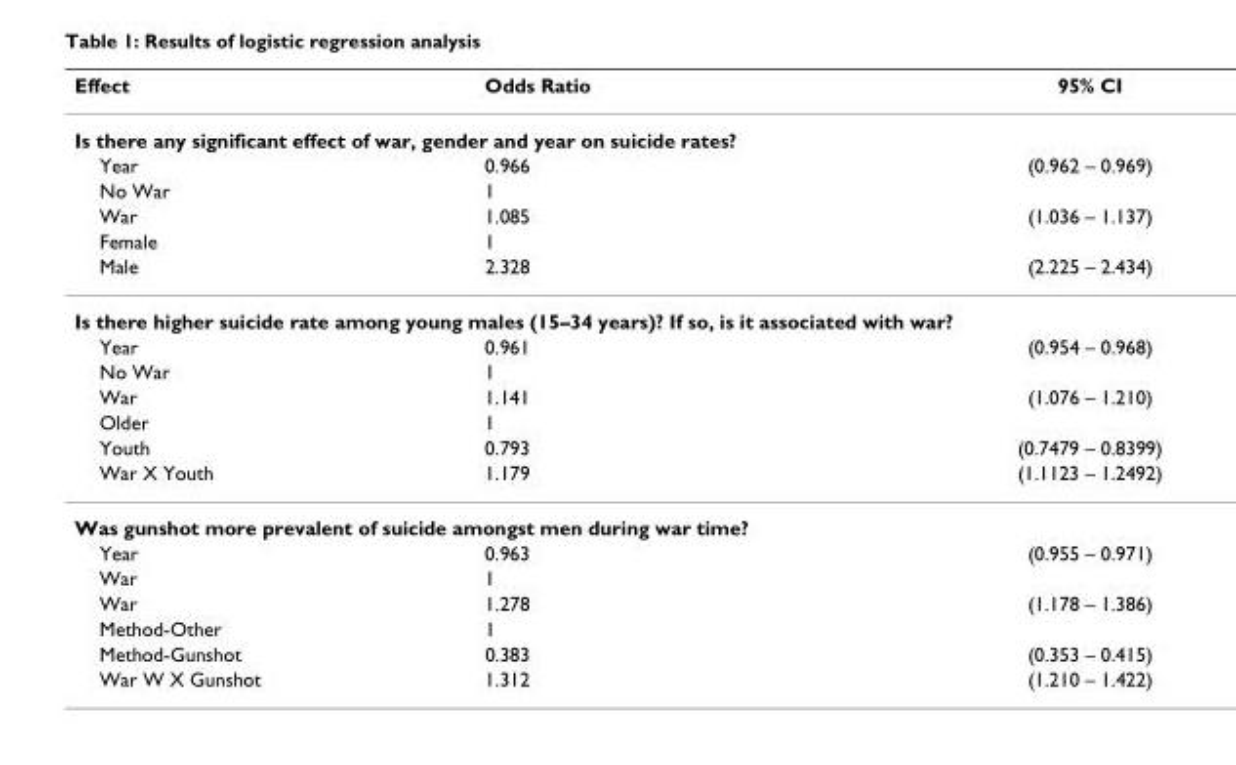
<table><thead><tr><td>Effect</td><td>Odds Ratio</td><td>95% CI</td></tr></thead><tbody><tr><td colspan="3">Is there any significant effect of war, gender and year on suicide rates?</td></tr><tr><td>Year</td><td>0.966</td><td>(0.962 – 0.969)</td></tr><tr><td>No War</td><td>1</td><td></td></tr><tr><td>War</td><td>1.085</td><td>(1.036 – 1.137)</td></tr><tr><td>Female</td><td>1</td><td></td></tr><tr><td>Male</td><td>2.328</td><td>(2.225 – 2.434)</td></tr><tr><td colspan="3">Is there higher suicide rate among young males (15–34 years)? If so, is it associated with war?</td></tr><tr><td>Year</td><td>0.961</td><td>(0.954 – 0.968)</td></tr><tr><td>No War</td><td>1</td><td></td></tr><tr><td>War</td><td>1.141</td><td>(1.076 – 1.210)</td></tr><tr><td>Older</td><td>1</td><td></td></tr><tr><td>Youth</td><td>0.793</td><td>(0.7479 – 0.8399)</td></tr><tr><td>War X Youth</td><td>1.179</td><td>(1.1123 – 1.2492)</td></tr><tr><td colspan="3">Was gunshot more prevalent of suicide amongst men during war time?</td></tr><tr><td>Year</td><td>0.963</td><td>(0.955 – 0.971)</td></tr><tr><td>War</td><td>1</td><td></td></tr><tr><td>War</td><td>1.278</td><td>(1.178 – 1.386)</td></tr><tr><td>Method-Other</td><td>1</td><td></td></tr><tr><td>Method-Gunshot</td><td>0.383</td><td>(0.353 – 0.415)</td></tr><tr><td>War W X Gunshot</td><td>1.312</td><td>(1.210 – 1.422)</td></tr></tbody></table>